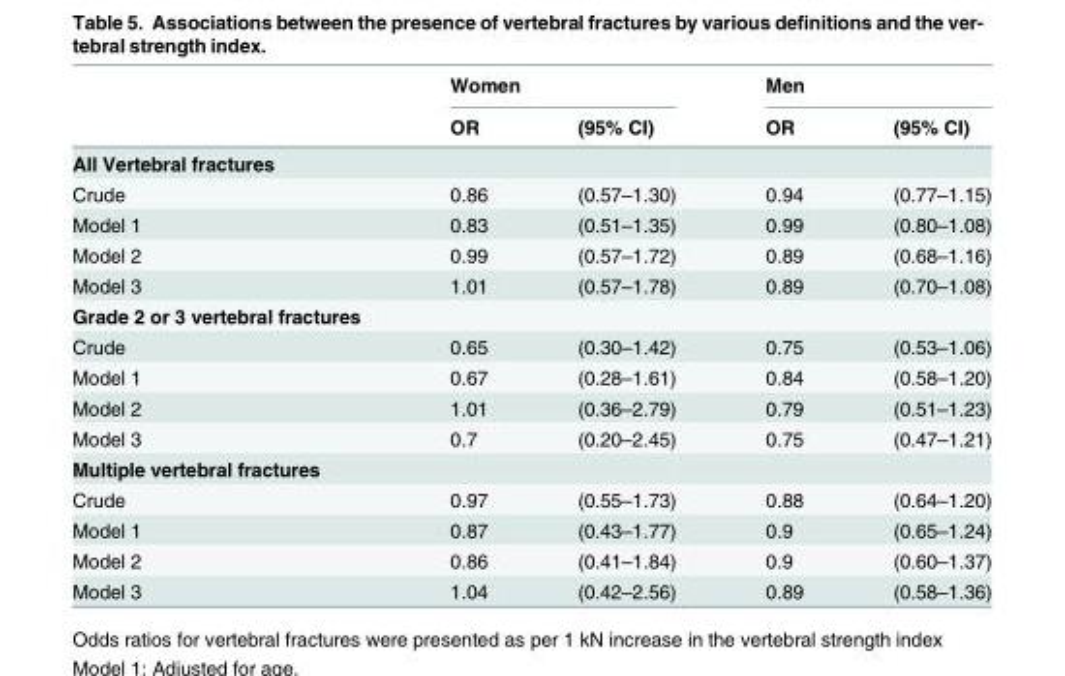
<table><thead><tr><td rowspan="2"></td><td colspan="2">Women</td><td colspan="2">Men</td></tr><tr><td>OR</td><td>(95% CI)</td><td>OR</td><td>(95% CI)</td></tr></thead><tbody><tr><td colspan="5">All Vertebral fractures</td></tr><tr><td>Crude</td><td>0.86</td><td>(0.57–1.30)</td><td>0.94</td><td>(0.77–1.15)</td></tr><tr><td>Model 1</td><td>0.83</td><td>(0.51–1.35)</td><td>0.99</td><td>(0.80–1.08)</td></tr><tr><td>Model 2</td><td>0.99</td><td>(0.57–1.72)</td><td>0.89</td><td>(0.68–1.16)</td></tr><tr><td>Model 3</td><td>1.01</td><td>(0.57–1.78)</td><td>0.89</td><td>(0.70–1.08)</td></tr><tr><td colspan="5">Grade 2 or 3 vertebral fractures</td></tr><tr><td>Crude</td><td>0.65</td><td>(0.30–1.42)</td><td>0.75</td><td>(0.53–1.06)</td></tr><tr><td>Model 1</td><td>0.67</td><td>(0.28–1.61)</td><td>0.84</td><td>(0.58–1.20)</td></tr><tr><td>Model 2</td><td>1.01</td><td>(0.36–2.79)</td><td>0.79</td><td>(0.51–1.23)</td></tr><tr><td>Model 3</td><td>0.7</td><td>(0.20–2.45)</td><td>0.75</td><td>(0.47–1.21)</td></tr><tr><td colspan="5">Multiple vertebral fractures</td></tr><tr><td>Crude</td><td>0.97</td><td>(0.55–1.73)</td><td>0.88</td><td>(0.64–1.20)</td></tr><tr><td>Model 1</td><td>0.87</td><td>(0.43–1.77)</td><td>0.9</td><td>(0.65–1.24)</td></tr><tr><td>Model 2</td><td>0.86</td><td>(0.41–1.84)</td><td>0.9</td><td>(0.60–1.37)</td></tr><tr><td>Model 3</td><td>1.04</td><td>(0.42–2.56)</td><td>0.89</td><td>(0.58–1.36)</td></tr></tbody></table>